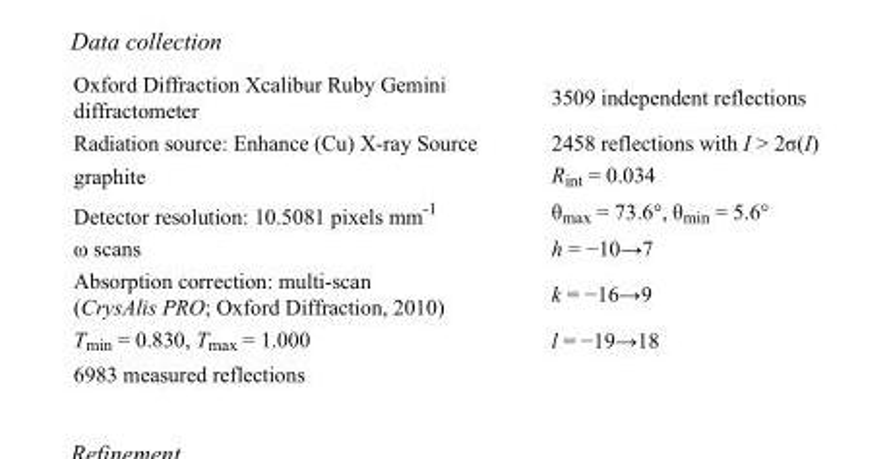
<table><tbody><tr><td>Oxford Diffraction Xcalibur Ruby Gemini diffractometer</td><td>3509 independent reflections</td></tr><tr><td>Radiation source: Enhance (Cu) X-ray Source</td><td>2458 reflections with I &gt; 2σ(I)</td></tr><tr><td>graphite</td><td>R<sub>int</sub> = 0.034</td></tr><tr><td>Detector resolution: 10.5081 pixels mm<sup>-1</sup></td><td>θ<sub>max</sub> = 73.6°, θ<sub>min</sub> = 5.6°</td></tr><tr><td>ω scans</td><td>h = −10→7</td></tr><tr><td>Absorption correction: multi-scan (CrysAlis PRO; Oxford Diffraction, 2010)</td><td>k = −16→9</td></tr><tr><td>T<sub>min</sub> = 0.830, T<sub>max</sub> = 1.000</td><td>l = −19→18</td></tr><tr><td>6983 measured reflections</td><td></td></tr></tbody></table>